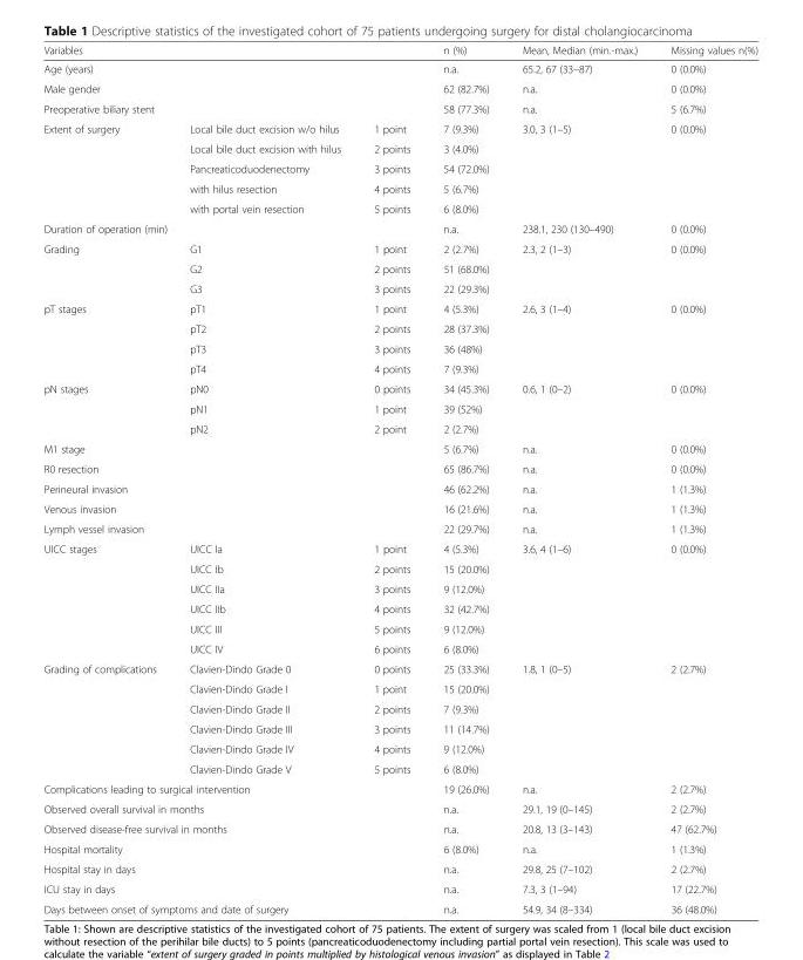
<table><thead><tr><td colspan="3">Variables</td><td>n (%)</td><td>Mean, Median (min.-max.)</td><td>Missing values n(%)</td></tr></thead><tbody><tr><td colspan="3">Age (years)</td><td>n.a.</td><td>65.2, 67 (33–87)</td><td>0 (0.0%)</td></tr><tr><td colspan="3">Male gender</td><td>62 (82.7%)</td><td>n.a.</td><td>0 (0.0%)</td></tr><tr><td colspan="3">Preoperative biliary stent</td><td>58 (77.3%)</td><td>n.a.</td><td>5 (6.7%)</td></tr><tr><td rowspan="5">Extent of surgery</td><td>Local bile duct excision w/o hilus</td><td>1 point</td><td>7 (9.3%)</td><td rowspan="5">3.0, 3 (1–5)</td><td rowspan="5">0 (0.0%)</td></tr><tr><td>Local bile duct excision with hilus</td><td>2 points</td><td>3 (4.0%)</td></tr><tr><td>Pancreaticoduodenectomy</td><td>3 points</td><td>54 (72.0%)</td></tr><tr><td>with hilus resection</td><td>4 points</td><td>5 (6.7%)</td></tr><tr><td>with portal vein resection</td><td>5 points</td><td>6 (8.0%)</td></tr><tr><td colspan="3">Duration of operation (min)</td><td>n.a.</td><td>238.1, 230 (130–490)</td><td>0 (0.0%)</td></tr><tr><td rowspan="3">Grading</td><td>G1</td><td>1 point</td><td>2 (2.7%)</td><td rowspan="3">2.3, 2 (1–3)</td><td rowspan="3">0 (0.0%)</td></tr><tr><td>G2</td><td>2 points</td><td>51 (68.0%)</td></tr><tr><td>G3</td><td>3 points</td><td>22 (29.3%)</td></tr><tr><td rowspan="4">pT stages</td><td>pT1</td><td>1 point</td><td>4 (5.3%)</td><td rowspan="4">2.6, 3 (1–4)</td><td rowspan="4">0 (0.0%)</td></tr><tr><td>pT2</td><td>2 points</td><td>28 (37.3%)</td></tr><tr><td>pT3</td><td>3 points</td><td>36 (48%)</td></tr><tr><td>pT4</td><td>4 points</td><td>7 (9.3%)</td></tr><tr><td rowspan="3">pN stages</td><td>pN0</td><td>0 points</td><td>34 (45.3%)</td><td rowspan="3">0.6, 1 (0–2)</td><td rowspan="3">0 (0.0%)</td></tr><tr><td>pN1</td><td>1 point</td><td>39 (52%)</td></tr><tr><td>pN2</td><td>2 point</td><td>2 (2.7%)</td></tr><tr><td colspan="3">M1 stage</td><td>5 (6.7%)</td><td>n.a.</td><td>0 (0.0%)</td></tr><tr><td colspan="3">R0 resection</td><td>65 (86.7%)</td><td>n.a.</td><td>0 (0.0%)</td></tr><tr><td colspan="3">Perineural invasion</td><td>46 (62.2%)</td><td>n.a.</td><td>1 (1.3%)</td></tr><tr><td colspan="3">Venous invasion</td><td>16 (21.6%)</td><td>n.a.</td><td>1 (1.3%)</td></tr><tr><td colspan="3">Lymph vessel invasion</td><td>22 (29.7%)</td><td>n.a.</td><td>1 (1.3%)</td></tr><tr><td rowspan="6">UICC stages</td><td>UICC Ia</td><td>1 point</td><td>4 (5.3%)</td><td rowspan="6">3.6, 4 (1–6)</td><td rowspan="6">0 (0.0%)</td></tr><tr><td>UICC Ib</td><td>2 points</td><td>15 (20.0%)</td></tr><tr><td>UICC IIa</td><td>3 points</td><td>9 (12.0%)</td></tr><tr><td>UICC IIb</td><td>4 points</td><td>32 (42.7%)</td></tr><tr><td>UICC III</td><td>5 points</td><td>9 (12.0%)</td></tr><tr><td>UICC IV</td><td>6 points</td><td>6 (8.0%)</td></tr><tr><td rowspan="6">Grading of complications</td><td>Clavien-Dindo Grade 0</td><td>0 points</td><td>25 (33.3%)</td><td rowspan="6">1.8, 1 (0–5)</td><td rowspan="6">2 (2.7%)</td></tr><tr><td>Clavien-Dindo Grade I</td><td>1 point</td><td>15 (20.0%)</td></tr><tr><td>Clavien-Dindo Grade II</td><td>2 points</td><td>7 (9.3%)</td></tr><tr><td>Clavien-Dindo Grade III</td><td>3 points</td><td>11 (14.7%)</td></tr><tr><td>Clavien-Dindo Grade IV</td><td>4 points</td><td>9 (12.0%)</td></tr><tr><td>Clavien-Dindo Grade V</td><td>5 points</td><td>6 (8.0%)</td></tr><tr><td colspan="3">Complications leading to surgical intervention</td><td>19 (26.0%)</td><td>n.a.</td><td>2 (2.7%)</td></tr><tr><td colspan="3">Observed overall survival in months</td><td>n.a.</td><td>29.1, 19 (0–145)</td><td>2 (2.7%)</td></tr><tr><td colspan="3">Observed disease-free survival in months</td><td>n.a.</td><td>20.8, 13 (3–143)</td><td>47 (62.7%)</td></tr><tr><td colspan="3">Hospital mortality</td><td>6 (8.0%)</td><td>n.a.</td><td>1 (1.3%)</td></tr><tr><td colspan="3">Hospital stay in days</td><td>n.a.</td><td>29.8, 25 (7–102)</td><td>2 (2.7%)</td></tr><tr><td colspan="3">ICU stay in days</td><td>n.a.</td><td>7.3, 3 (1–94)</td><td>17 (22.7%)</td></tr><tr><td colspan="3">Days between onset of symptoms and date of surgery</td><td>n.a.</td><td>54.9, 34 (8–334)</td><td>36 (48.0%)</td></tr></tbody></table>